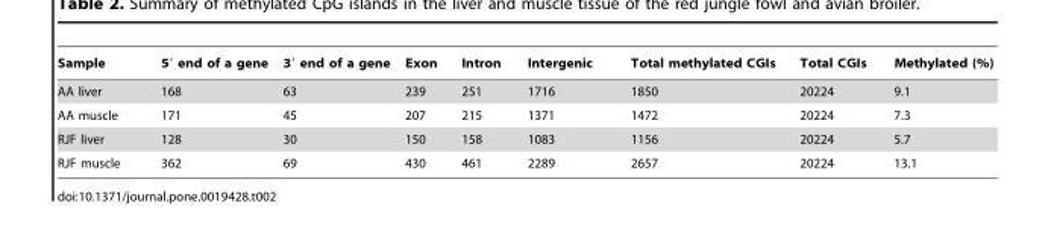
<table><thead><tr><td>Sample</td><td>5′ end of a gene</td><td>3′ end of a gene</td><td>Exon</td><td>Intron</td><td>Intergenic</td><td>Total methylated CGIs</td><td>Total CGIs</td><td>Methylated (%)</td></tr></thead><tbody><tr><td>AA liver</td><td>168</td><td>63</td><td>239</td><td>251</td><td>1716</td><td>1850</td><td>20224</td><td>9.1</td></tr><tr><td>AA muscle</td><td>171</td><td>45</td><td>207</td><td>215</td><td>1371</td><td>1472</td><td>20224</td><td>7.3</td></tr><tr><td>RJF liver</td><td>128</td><td>30</td><td>150</td><td>158</td><td>1083</td><td>1156</td><td>20224</td><td>5.7</td></tr><tr><td>RJF muscle</td><td>362</td><td>69</td><td>430</td><td>461</td><td>2289</td><td>2657</td><td>20224</td><td>13.1</td></tr></tbody></table>